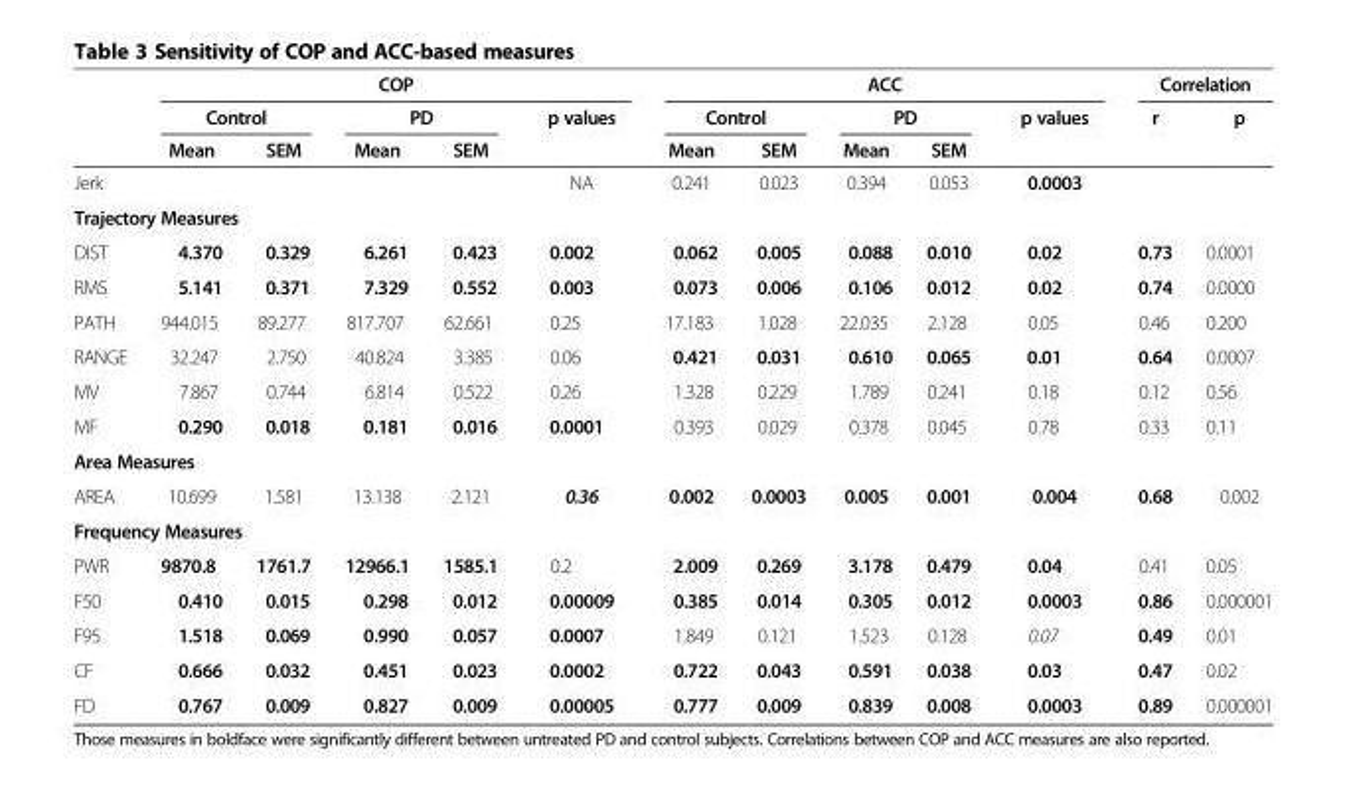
<table><thead><tr><td rowspan="3"></td><td colspan="5">COP</td><td colspan="5">ACC</td><td colspan="2">Correlation</td></tr><tr><td colspan="2">Control</td><td colspan="2">PD</td><td rowspan="2">p values</td><td colspan="2">Control</td><td colspan="2">PD</td><td rowspan="2">p values</td><td rowspan="2">r</td><td rowspan="2">p</td></tr><tr><td>Mean</td><td>SEM</td><td>Mean</td><td>SEM</td><td>Mean</td><td>SEM</td><td>Mean</td><td>SEM</td></tr></thead><tbody><tr><td>Jerk</td><td></td><td></td><td></td><td></td><td>NA</td><td>0.241</td><td>0.023</td><td>0.394</td><td>0.053</td><td>0.0003</td><td></td><td></td></tr><tr><td colspan="13">Trajectory Measures</td></tr><tr><td>DIST</td><td>4.370</td><td>0.329</td><td>6.261</td><td>0.423</td><td>0.002</td><td>0.062</td><td>0.005</td><td>0.088</td><td>0.010</td><td>0.02</td><td>0.73</td><td>0.0001</td></tr><tr><td>RMS</td><td>5.141</td><td>0.371</td><td>7.329</td><td>0.552</td><td>0.003</td><td>0.073</td><td>0.006</td><td>0.106</td><td>0.012</td><td>0.02</td><td>0.74</td><td>0.0000</td></tr><tr><td>PATH</td><td>944.015</td><td>89.277</td><td>817.707</td><td>62.661</td><td>0.25</td><td>17.183</td><td>1.028</td><td>22.035</td><td>2.128</td><td>0.05</td><td>0.46</td><td>0.200</td></tr><tr><td>RANGE</td><td>32.247</td><td>2.750</td><td>40.824</td><td>3.385</td><td>0.06</td><td>0.421</td><td>0.031</td><td>0.610</td><td>0.065</td><td>0.01</td><td>0.64</td><td>0.0007</td></tr><tr><td>MV</td><td>7.867</td><td>0.744</td><td>6.814</td><td>0.522</td><td>0.26</td><td>1.328</td><td>0.229</td><td>1.789</td><td>0.241</td><td>0.18</td><td>0.12</td><td>0.56</td></tr><tr><td>MF</td><td>0.290</td><td>0.018</td><td>0.181</td><td>0.016</td><td>0.0001</td><td>0.393</td><td>0.029</td><td>0.378</td><td>0.045</td><td>0.78</td><td>0.33</td><td>0.11</td></tr><tr><td colspan="13">Area Measures</td></tr><tr><td>AREA</td><td>10.699</td><td>1.581</td><td>13.138</td><td>2.121</td><td>0.36</td><td>0.002</td><td>0.0003</td><td>0.005</td><td>0.001</td><td>0.004</td><td>0.68</td><td>0.002</td></tr><tr><td colspan="13">Frequency Measures</td></tr><tr><td>PWR</td><td>9870.8</td><td>1761.7</td><td>12966.1</td><td>1585.1</td><td>0.2</td><td>2.009</td><td>0.269</td><td>3.178</td><td>0.479</td><td>0.04</td><td>0.41</td><td>0.05</td></tr><tr><td>F50</td><td>0.410</td><td>0.015</td><td>0.298</td><td>0.012</td><td>0.00009</td><td>0.385</td><td>0.014</td><td>0.305</td><td>0.012</td><td>0.0003</td><td>0.86</td><td>0.000001</td></tr><tr><td>F95</td><td>1.518</td><td>0.069</td><td>0.990</td><td>0.057</td><td>0.0007</td><td>1.849</td><td>0.121</td><td>1.523</td><td>0.128</td><td>0.07</td><td>0.49</td><td>0.01</td></tr><tr><td>CF</td><td>0.666</td><td>0.032</td><td>0.451</td><td>0.023</td><td>0.0002</td><td>0.722</td><td>0.043</td><td>0.591</td><td>0.038</td><td>0.03</td><td>0.47</td><td>0.02</td></tr><tr><td>FD</td><td>0.767</td><td>0.009</td><td>0.827</td><td>0.009</td><td>0.00005</td><td>0.777</td><td>0.009</td><td>0.839</td><td>0.008</td><td>0.0003</td><td>0.89</td><td>0.000001</td></tr></tbody></table>